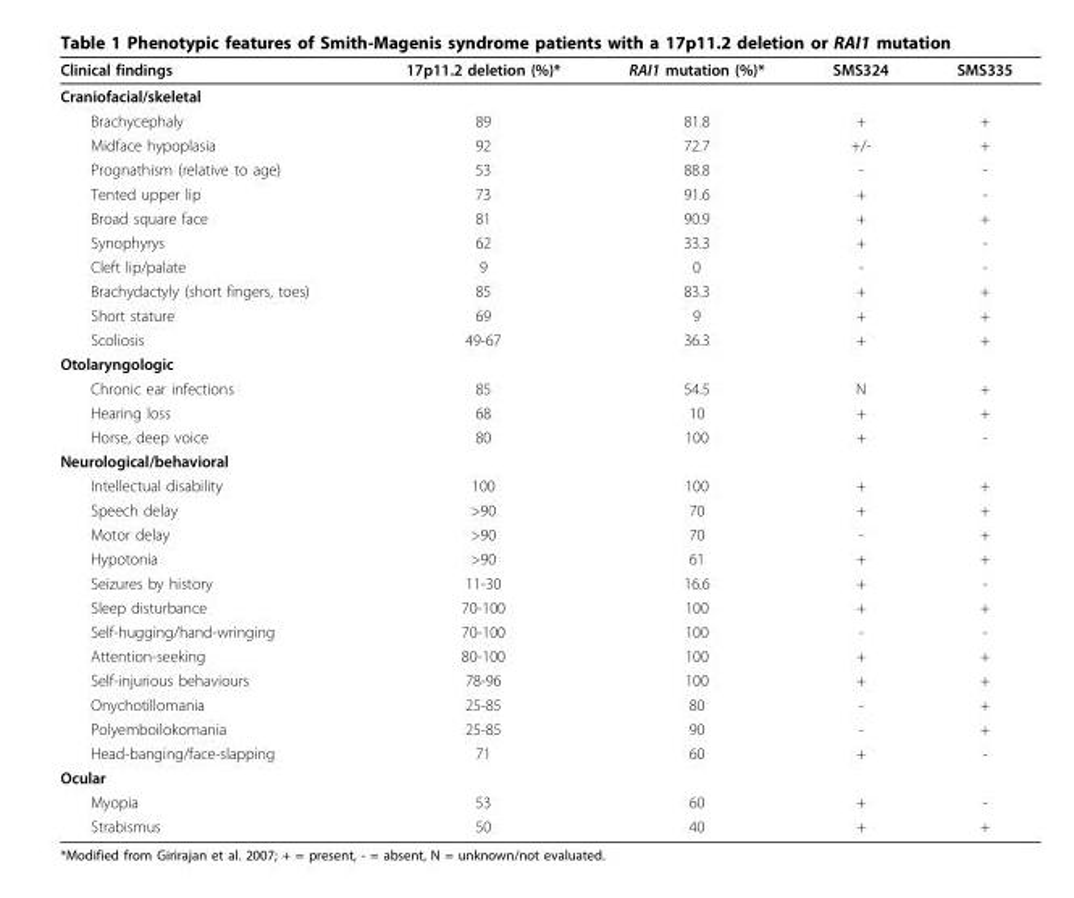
<table><thead><tr><td>Clinical findings</td><td>17p11.2 deletion (%)*</td><td>RAI1 mutation (%)*</td><td>SMS324</td><td>SMS335</td></tr></thead><tbody><tr><td colspan="5">Craniofacial/skeletal</td></tr><tr><td>Brachycephaly</td><td>89</td><td>81.8</td><td>+</td><td>+</td></tr><tr><td>Midface hypoplasia</td><td>92</td><td>72.7</td><td>+/-</td><td>+</td></tr><tr><td>Prognathism (relative to age)</td><td>53</td><td>88.8</td><td>-</td><td>-</td></tr><tr><td>Tented upper lip</td><td>73</td><td>91.6</td><td>+</td><td>-</td></tr><tr><td>Broad square face</td><td>81</td><td>90.9</td><td>+</td><td>+</td></tr><tr><td>Synophyrys</td><td>62</td><td>33.3</td><td>+</td><td>-</td></tr><tr><td>Cleft lip/palate</td><td>9</td><td>0</td><td>-</td><td>-</td></tr><tr><td>Brachydactyly (short fingers, toes)</td><td>85</td><td>83.3</td><td>+</td><td>+</td></tr><tr><td>Short stature</td><td>69</td><td>9</td><td>+</td><td>+</td></tr><tr><td>Scoliosis</td><td>49-67</td><td>36.3</td><td>+</td><td>+</td></tr><tr><td colspan="5">Otolaryngologic</td></tr><tr><td>Chronic ear infections</td><td>85</td><td>54.5</td><td>N</td><td>+</td></tr><tr><td>Hearing loss</td><td>68</td><td>10</td><td>+</td><td>+</td></tr><tr><td>Horse, deep voice</td><td>80</td><td>100</td><td>+</td><td>-</td></tr><tr><td colspan="5">Neurological/behavioral</td></tr><tr><td>Intellectual disability</td><td>100</td><td>100</td><td>+</td><td>+</td></tr><tr><td>Speech delay</td><td>&gt;90</td><td>70</td><td>+</td><td>+</td></tr><tr><td>Motor delay</td><td>&gt;90</td><td>70</td><td>-</td><td>+</td></tr><tr><td>Hypotonia</td><td>&gt;90</td><td>61</td><td>+</td><td>+</td></tr><tr><td>Seizures by history</td><td>11-30</td><td>16.6</td><td>+</td><td>-</td></tr><tr><td>Sleep disturbance</td><td>70-100</td><td>100</td><td>+</td><td>+</td></tr><tr><td>Self-hugging/hand-wringing</td><td>70-100</td><td>100</td><td>-</td><td>-</td></tr><tr><td>Attention-seeking</td><td>80-100</td><td>100</td><td>+</td><td>+</td></tr><tr><td>Self-injurious behaviours</td><td>78-96</td><td>100</td><td>+</td><td>+</td></tr><tr><td>Onychotillomania</td><td>25-85</td><td>80</td><td>-</td><td>+</td></tr><tr><td>Polyemboilokomania</td><td>25-85</td><td>90</td><td>-</td><td>+</td></tr><tr><td>Head-banging/face-slapping</td><td>71</td><td>60</td><td>+</td><td>-</td></tr><tr><td colspan="5">Ocular</td></tr><tr><td>Myopia</td><td>53</td><td>60</td><td>+</td><td>-</td></tr><tr><td>Strabismus</td><td>50</td><td>40</td><td>+</td><td>+</td></tr></tbody></table>